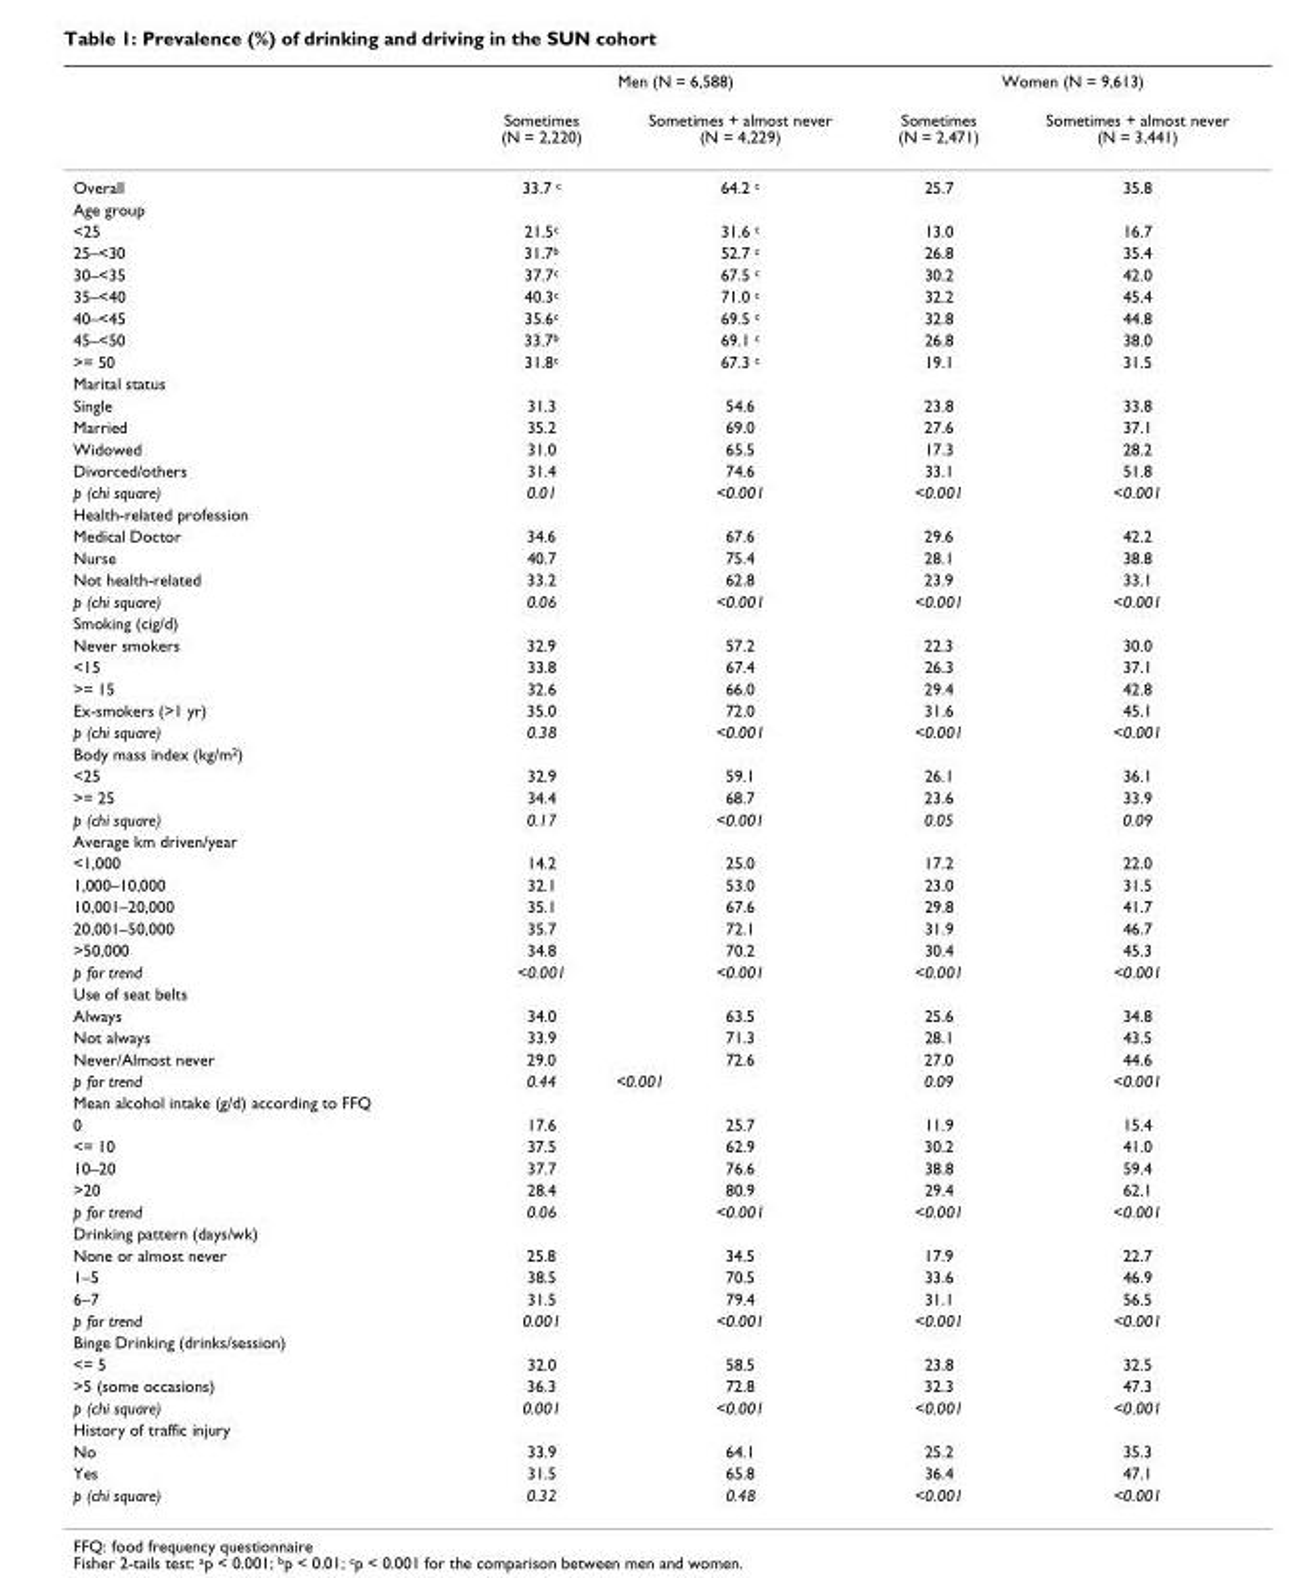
<table><thead><tr><td rowspan="2"></td><td colspan="2">Men (N = 6,588)</td><td colspan="2">Women (N = 9,613)</td></tr><tr><td>Sometimes (N = 2,220)</td><td>Sometimes + almost never (N = 4,229)</td><td>Sometimes (N = 2,471)</td><td>Sometimes + almost never (N = 3,441)</td></tr></thead><tbody><tr><td>Overall</td><td>33.7 <sup>c</sup></td><td>64.2 <sup>c</sup></td><td>25.7</td><td>35.8</td></tr><tr><td colspan="5">Age group</td></tr><tr><td>&lt;25</td><td>21.5<sup>c</sup></td><td>31.6 <sup>c</sup></td><td>13.0</td><td>16.7</td></tr><tr><td>25–&lt;30</td><td>31.7<sup>b</sup></td><td>52.7 <sup>c</sup></td><td>26.8</td><td>35.4</td></tr><tr><td>30–&lt;35</td><td>37.7<sup>c</sup></td><td>67.5 <sup>c</sup></td><td>30.2</td><td>42.0</td></tr><tr><td>35–&lt;40</td><td>40.3<sup>c</sup></td><td>71.0 <sup>c</sup></td><td>32.2</td><td>45.4</td></tr><tr><td>40–&lt;45</td><td>35.6<sup>c</sup></td><td>69.5 <sup>c</sup></td><td>32.8</td><td>44.8</td></tr><tr><td>45–&lt;50</td><td>33.7<sup>b</sup></td><td>69.1 <sup>c</sup></td><td>26.8</td><td>38.0</td></tr><tr><td>&gt;= 50</td><td>31.8<sup>c</sup></td><td>67.3 <sup>c</sup></td><td>19.1</td><td>31.5</td></tr><tr><td colspan="5">Marital status</td></tr><tr><td>Single</td><td>31.3</td><td>54.6</td><td>23.8</td><td>33.8</td></tr><tr><td>Married</td><td>35.2</td><td>69.0</td><td>27.6</td><td>37.1</td></tr><tr><td>Widowed</td><td>31.0</td><td>65.5</td><td>17.3</td><td>28.2</td></tr><tr><td>Divorced/others</td><td>31.4</td><td>74.6</td><td>33.1</td><td>51.8</td></tr><tr><td>p (chi square)</td><td>0.01</td><td>&lt;0.001</td><td>&lt;0.001</td><td>&lt;0.001</td></tr><tr><td colspan="5">Health-related profession</td></tr><tr><td>Medical Doctor</td><td>34.6</td><td>67.6</td><td>29.6</td><td>42.2</td></tr><tr><td>Nurse</td><td>40.7</td><td>75.4</td><td>28.1</td><td>38.8</td></tr><tr><td>Not health-related</td><td>33.2</td><td>62.8</td><td>23.9</td><td>33.1</td></tr><tr><td>p (chi square)</td><td>0.06</td><td>&lt;0.001</td><td>&lt;0.001</td><td>&lt;0.001</td></tr><tr><td colspan="5">Smoking (cig/d)</td></tr><tr><td>Never smokers</td><td>32.9</td><td>57.2</td><td>22.3</td><td>30.0</td></tr><tr><td>&lt;15</td><td>33.8</td><td>67.4</td><td>26.3</td><td>37.1</td></tr><tr><td>&gt;= 15</td><td>32.6</td><td>66.0</td><td>29.4</td><td>42.8</td></tr><tr><td>Ex-smokers (&gt;1 yr)</td><td>35.0</td><td>72.0</td><td>31.6</td><td>45.1</td></tr><tr><td>p (chi square)</td><td>0.38</td><td>&lt;0.001</td><td>&lt;0.001</td><td>&lt;0.001</td></tr><tr><td colspan="5">Body mass index (kg/m<sup>2</sup>)</td></tr><tr><td>&lt;25</td><td>32.9</td><td>59.1</td><td>26.1</td><td>36.1</td></tr><tr><td>&gt;= 25</td><td>34.4</td><td>68.7</td><td>23.6</td><td>33.9</td></tr><tr><td>p (chi square)</td><td>0.17</td><td>&lt;0.001</td><td>0.05</td><td>0.09</td></tr><tr><td colspan="5">Average km driven/year</td></tr><tr><td>&lt;1,000</td><td>14.2</td><td>25.0</td><td>17.2</td><td>22.0</td></tr><tr><td>1,000–10,000</td><td>32.1</td><td>53.0</td><td>23.0</td><td>31.5</td></tr><tr><td>10,001–20,000</td><td>35.1</td><td>67.6</td><td>29.8</td><td>41.7</td></tr><tr><td>20,001–50,000</td><td>35.7</td><td>72.1</td><td>31.9</td><td>46.7</td></tr><tr><td>&gt;50,000</td><td>34.8</td><td>70.2</td><td>30.4</td><td>45.3</td></tr><tr><td>p for trend</td><td>&lt;0.001</td><td>&lt;0.001</td><td>&lt;0.001</td><td>&lt;0.001</td></tr><tr><td colspan="5">Use of seat belts</td></tr><tr><td>Always</td><td>34.0</td><td>63.5</td><td>25.6</td><td>34.8</td></tr><tr><td>Not always</td><td>33.9</td><td>71.3</td><td>28.1</td><td>43.5</td></tr><tr><td>Never/Almost never</td><td>29.0</td><td>72.6</td><td>27.0</td><td>44.6</td></tr><tr><td>p for trend</td><td>0.44</td><td>&lt;0.001</td><td>0.09</td><td>&lt;0.001</td></tr><tr><td colspan="5">Mean alcohol intake (g/d) according to FFQ</td></tr><tr><td>0</td><td>17.6</td><td>25.7</td><td>11.9</td><td>15.4</td></tr><tr><td>&lt;= 10</td><td>37.5</td><td>62.9</td><td>30.2</td><td>41.0</td></tr><tr><td>10–20</td><td>37.7</td><td>76.6</td><td>38.8</td><td>59.4</td></tr><tr><td>&gt;20</td><td>28.4</td><td>80.9</td><td>29.4</td><td>62.1</td></tr><tr><td>p for trend</td><td>0.06</td><td>&lt;0.001</td><td>&lt;0.001</td><td>&lt;0.001</td></tr><tr><td colspan="5">Drinking pattern (days/wk)</td></tr><tr><td>None or almost never</td><td>25.8</td><td>34.5</td><td>17.9</td><td>22.7</td></tr><tr><td>1–5</td><td>38.5</td><td>70.5</td><td>33.6</td><td>46.9</td></tr><tr><td>6–7</td><td>31.5</td><td>79.4</td><td>31.1</td><td>56.5</td></tr><tr><td>p for trend</td><td>0.001</td><td>&lt;0.001</td><td>&lt;0.001</td><td>&lt;0.001</td></tr><tr><td colspan="5">Binge Drinking (drinks/session)</td></tr><tr><td>&lt;= 5</td><td>32.0</td><td>58.5</td><td>23.8</td><td>32.5</td></tr><tr><td>&gt;5 (some occasions)</td><td>36.3</td><td>72.8</td><td>32.3</td><td>47.3</td></tr><tr><td>p (chi square)</td><td>0.001</td><td>&lt;0.001</td><td>&lt;0.001</td><td>&lt;0.001</td></tr><tr><td colspan="5">History of traffic injury</td></tr><tr><td>No</td><td>33.9</td><td>64.1</td><td>25.2</td><td>35.3</td></tr><tr><td>Yes</td><td>31.5</td><td>65.8</td><td>36.4</td><td>47.1</td></tr><tr><td>p (chi square)</td><td>0.32</td><td>0.48</td><td>&lt;0.001</td><td>&lt;0.001</td></tr></tbody></table>